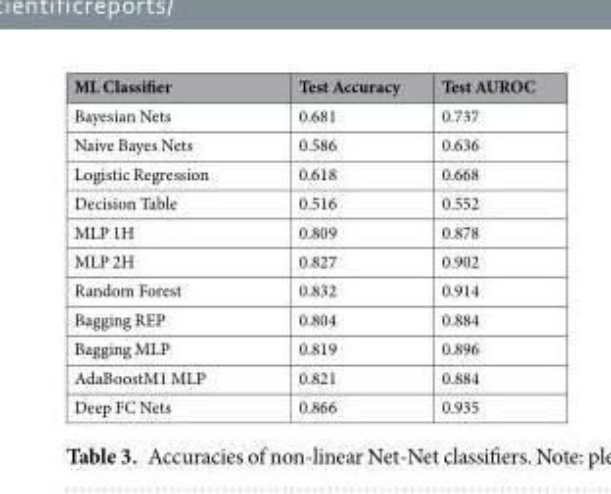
<table><thead><tr><td>ML Classifier</td><td>Test Accuracy</td><td>Test AUROC</td></tr></thead><tbody><tr><td>Bayesian Nets</td><td>0.681</td><td>0.737</td></tr><tr><td>Naive Bayes Nets</td><td>0.586</td><td>0.636</td></tr><tr><td>Logistic Regression</td><td>0.618</td><td>0.668</td></tr><tr><td>Decision Table</td><td>0.516</td><td>0.552</td></tr><tr><td>MLP 1H</td><td>0.809</td><td>0.878</td></tr><tr><td>MLP 2H</td><td>0.827</td><td>0.902</td></tr><tr><td>Random Forest</td><td>0.832</td><td>0.914</td></tr><tr><td>Bagging REP</td><td>0.804</td><td>0.884</td></tr><tr><td>Bagging MLP</td><td>0.819</td><td>0.896</td></tr><tr><td>AdaBoostM1 MLP</td><td>0.821</td><td>0.884</td></tr><tr><td>Deep FC Nets</td><td>0.866</td><td>0.935</td></tr></tbody></table>